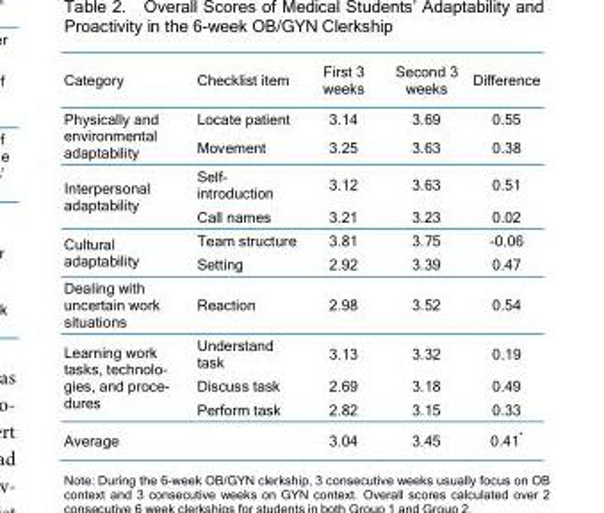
<table><thead><tr><td>Category</td><td>Checklist item</td><td>First 3 weeks</td><td>Second 3 weeks</td><td>Difference</td></tr></thead><tbody><tr><td rowspan="2">Physically and environmental adaptability</td><td>Locate patient</td><td>3.14</td><td>3.69</td><td>0.55</td></tr><tr><td>Movement</td><td>3.25</td><td>3.63</td><td>0.38</td></tr><tr><td rowspan="2">Interpersonal adaptability</td><td>Self- introduction</td><td>3.12</td><td>3.63</td><td>0.51</td></tr><tr><td>Call names</td><td>3.21</td><td>3.23</td><td>0.02</td></tr><tr><td rowspan="2">Cultural adaptability</td><td>Team structure</td><td>3.81</td><td>3.75</td><td>-0.06</td></tr><tr><td>Setting</td><td>2.92</td><td>3.39</td><td>0.47</td></tr><tr><td>Dealing with uncertain work situations</td><td>Reaction</td><td>2.98</td><td>3.52</td><td>0.54</td></tr><tr><td rowspan="3">Learning work tasks, technolo- gies, and proce- dures</td><td>Understand task</td><td>3.13</td><td>3.32</td><td>0.19</td></tr><tr><td>Discuss task</td><td>2.69</td><td>3.18</td><td>0.49</td></tr><tr><td>Perform task</td><td>2.82</td><td>3.15</td><td>0.33</td></tr><tr><td colspan="2">Average</td><td>3.04</td><td>3.45</td><td>0.41*</td></tr></tbody></table>